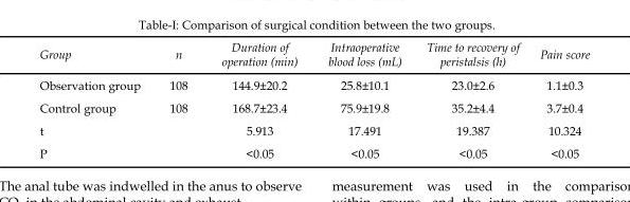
<table><thead><tr><td>Group</td><td>n</td><td>Duration of operation (min)</td><td>Intraoperative blood loss (mL)</td><td>Time to recovery of peristalsis (h)</td><td>Pain score</td></tr></thead><tbody><tr><td>Observation group</td><td>108</td><td>144.9±20.2</td><td>25.8±10.1</td><td>23.0±2.6</td><td>1.1±0.3</td></tr><tr><td>Control group</td><td>108</td><td>168.7±23.4</td><td>75.9±19.8</td><td>35.2±4.4</td><td>3.7±0.4</td></tr><tr><td>t</td><td></td><td>5.913</td><td>17.491</td><td>19.387</td><td>10.324</td></tr><tr><td>P</td><td></td><td>&lt;0.05</td><td>&lt;0.05</td><td>&lt;0.05</td><td>&lt;0.05</td></tr></tbody></table>